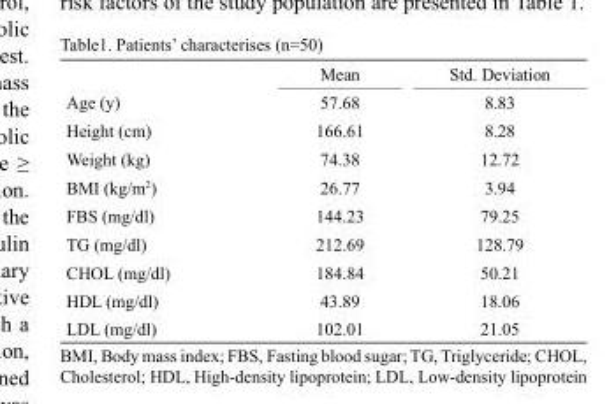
<table><thead><tr><td></td><td>Mean</td><td>Std. Deviation</td></tr></thead><tbody><tr><td>Age (y)</td><td>57.68</td><td>8.83</td></tr><tr><td>Height (cm)</td><td>166.61</td><td>8.28</td></tr><tr><td>Weight (kg)</td><td>74.38</td><td>12.72</td></tr><tr><td>BMI (kg/m<sup>2</sup>)</td><td>26.77</td><td>3.94</td></tr><tr><td>FBS (mg/dl)</td><td>144.23</td><td>79.25</td></tr><tr><td>TG (mg/dl)</td><td>212.69</td><td>128.79</td></tr><tr><td>CHOL (mg/dl)</td><td>184.84</td><td>50.21</td></tr><tr><td>HDL (mg/dl)</td><td>43.89</td><td>18.06</td></tr><tr><td>LDL (mg/dl)</td><td>102.01</td><td>21.05</td></tr></tbody></table>